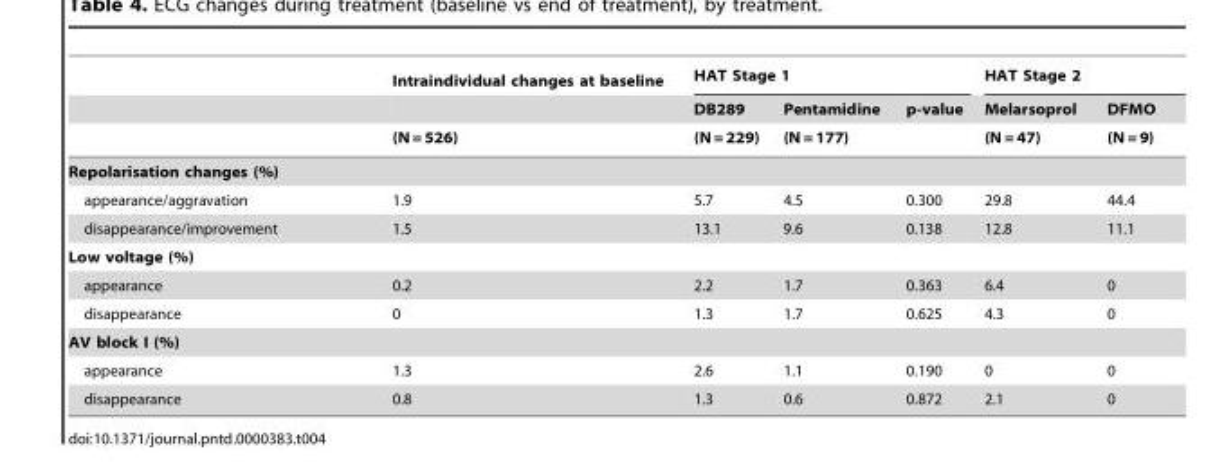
<table><thead><tr><td rowspan="3"></td><td rowspan="3">Intraindividual changes at baseline (N = 526)</td><td colspan="3">HAT Stage 1</td><td colspan="2">HAT Stage 2</td></tr><tr><td rowspan="2">DB289 (N = 229)</td><td rowspan="2">Pentamidine (N = 177)</td><td rowspan="2">p-value</td><td rowspan="2">Melarsoprol (N = 47)</td><td rowspan="2">DFMO (N = 9)</td></tr><tr></tr></thead><tbody><tr><td colspan="7">Repolarisation changes (%)</td></tr><tr><td>appearance/aggravation</td><td>1.9</td><td>5.7</td><td>4.5</td><td>0.300</td><td>29.8</td><td>44.4</td></tr><tr><td>disappearance/improvement</td><td>1.5</td><td>13.1</td><td>9.6</td><td>0.138</td><td>12.8</td><td>11.1</td></tr><tr><td colspan="7">Low voltage (%)</td></tr><tr><td>appearance</td><td>0.2</td><td>2.2</td><td>1.7</td><td>0.363</td><td>6.4</td><td>0</td></tr><tr><td>disappearance</td><td>0</td><td>1.3</td><td>1.7</td><td>0.625</td><td>4.3</td><td>0</td></tr><tr><td colspan="7">AV block I (%)</td></tr><tr><td>appearance</td><td>1.3</td><td>2.6</td><td>1.1</td><td>0.190</td><td>0</td><td>0</td></tr><tr><td>disappearance</td><td>0.8</td><td>1.3</td><td>0.6</td><td>0.872</td><td>2.1</td><td>0</td></tr></tbody></table>